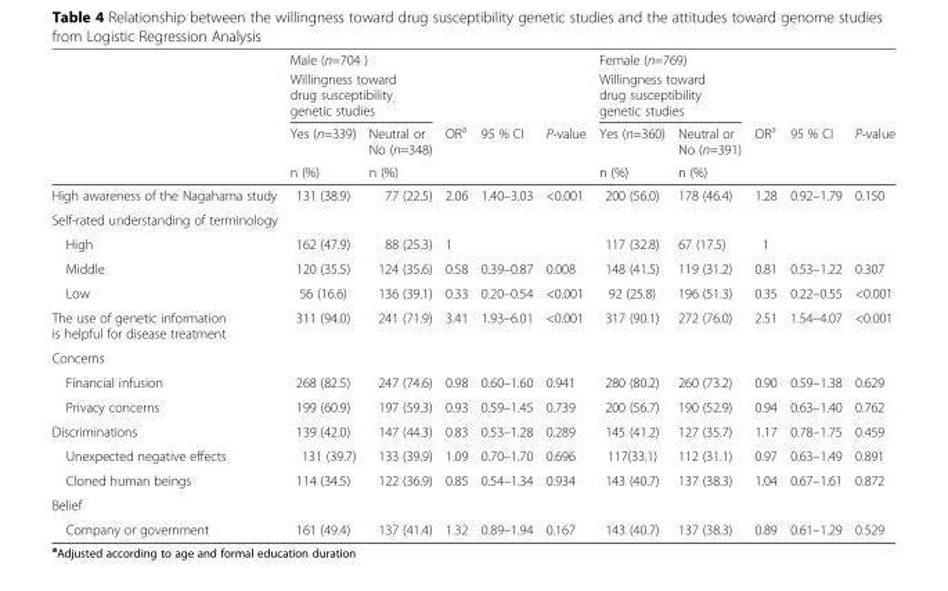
<table><thead><tr><td rowspan="4"></td><td colspan="5">Male (n=704 )</td><td colspan="5">Female (n=769)</td></tr><tr><td colspan="2">Willingness toward drug susceptibility genetic studies</td><td rowspan="3">OR<sup>a</sup></td><td rowspan="3">95 % CI</td><td rowspan="3">P-value</td><td colspan="2">Willingness toward drug susceptibility genetic studies</td><td rowspan="3">OR<sup>a</sup></td><td rowspan="3">95 % CI</td><td rowspan="3">P-value</td></tr><tr><td rowspan="2">Yes (n=339) n (%)</td><td rowspan="2">Neutral or No (n=348) n (%)</td><td rowspan="2">Yes (n=360) n (%)</td><td rowspan="2">Neutral or No (n=391) n (%)</td></tr><tr></tr></thead><tbody><tr><td>High awareness of the Nagahama study</td><td>131 (38.9)</td><td>77 (22.5)</td><td>2.06</td><td>1.40–3.03</td><td>&lt;0.001</td><td>200 (56.0)</td><td>178 (46.4)</td><td>1.28</td><td>0.92–1.79</td><td>0.150</td></tr><tr><td colspan="11">Self-rated understanding of terminology</td></tr><tr><td>High</td><td>162 (47.9)</td><td>88 (25.3)</td><td>1</td><td></td><td></td><td>117 (32.8)</td><td>67 (17.5)</td><td>1</td><td></td><td></td></tr><tr><td>Middle</td><td>120 (35.5)</td><td>124 (35.6)</td><td>0.58</td><td>0.39–0.87</td><td>0.008</td><td>148 (41.5)</td><td>119 (31.2)</td><td>0.81</td><td>0.53–1.22</td><td>0.307</td></tr><tr><td>Low</td><td>56 (16.6)</td><td>136 (39.1)</td><td>0.33</td><td>0.20–0.54</td><td>&lt;0.001</td><td>92 (25.8)</td><td>196 (51.3)</td><td>0.35</td><td>0.22–0.55</td><td>&lt;0.001</td></tr><tr><td>The use of genetic information is helpful for disease treatment</td><td>311 (94.0)</td><td>241 (71.9)</td><td>3.41</td><td>1.93–6.01</td><td>&lt;0.001</td><td>317 (90.1)</td><td>272 (76.0)</td><td>2.51</td><td>1.54–4.07</td><td>&lt;0.001</td></tr><tr><td colspan="11">Concerns</td></tr><tr><td>Financial infusion</td><td>268 (82.5)</td><td>247 (74.6)</td><td>0.98</td><td>0.60–1.60</td><td>0.941</td><td>280 (80.2)</td><td>260 (73.2)</td><td>0.90</td><td>0.59–1.38</td><td>0.629</td></tr><tr><td>Privacy concerns</td><td>199 (60.9)</td><td>197 (59.3)</td><td>0.93</td><td>0.59–1.45</td><td>0.739</td><td>200 (56.7)</td><td>190 (52.9)</td><td>0.94</td><td>0.63–1.40</td><td>0.762</td></tr><tr><td>Discriminations</td><td>139 (42.0)</td><td>147 (44.3)</td><td>0.83</td><td>0.53–1.28</td><td>0.289</td><td>145 (41.2)</td><td>127 (35.7)</td><td>1.17</td><td>0.78–1.75</td><td>0.459</td></tr><tr><td>Unexpected negative effects</td><td>131 (39.7)</td><td>133 (39.9)</td><td>1.09</td><td>0.70–1.70</td><td>0.696</td><td>117(33.1)</td><td>112 (31.1)</td><td>0.97</td><td>0.63–1.49</td><td>0.891</td></tr><tr><td>Cloned human beings</td><td>114 (34.5)</td><td>122 (36.9)</td><td>0.85</td><td>0.54–1.34</td><td>0.934</td><td>143 (40.7)</td><td>137 (38.3)</td><td>1.04</td><td>0.67–1.61</td><td>0.872</td></tr><tr><td colspan="11">Belief</td></tr><tr><td>Company or government</td><td>161 (49.4)</td><td>137 (41.4)</td><td>1.32</td><td>0.89–1.94</td><td>0.167</td><td>143 (40.7)</td><td>137 (38.3)</td><td>0.89</td><td>0.61–1.29</td><td>0.529</td></tr></tbody></table>